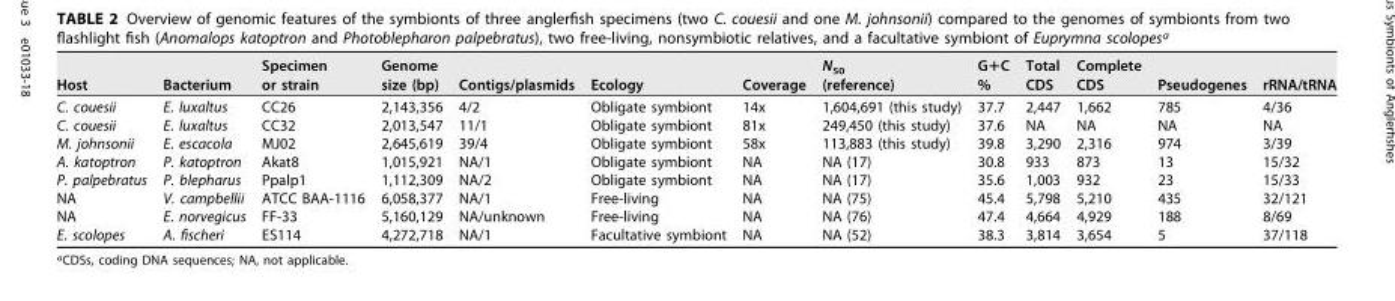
<table><thead><tr><td>Host</td><td>Bacterium</td><td>Specimen or strain</td><td>Genome size (bp)</td><td>Contigs/plasmids</td><td>Ecology</td><td>Coverage</td><td>N<sub>50</sub> (reference)</td><td>G+C %</td><td>Total CDS</td><td>Complete CDS</td><td>Pseudogenes</td><td>rRNA/tRNA</td></tr></thead><tbody><tr><td>C. couesii</td><td>E. luxaltus</td><td>CC26</td><td>2,143,356</td><td>4/2</td><td>Obligate symbiont</td><td>14x</td><td>1,604,691 (this study)</td><td>37.7</td><td>2,447</td><td>1,662</td><td>785</td><td>4/36</td></tr><tr><td>C. couesii</td><td>E. luxaltus</td><td>CC32</td><td>2,013,547</td><td>11/1</td><td>Obligate symbiont</td><td>81x</td><td>249,450 (this study)</td><td>37.6</td><td>NA</td><td>NA</td><td>NA</td><td>NA</td></tr><tr><td>M. johnsonii</td><td>E. escacola</td><td>MJ02</td><td>2,645,619</td><td>39/4</td><td>Obligate symbiont</td><td>58x</td><td>113,883 (this study)</td><td>39.8</td><td>3,290</td><td>2,316</td><td>974</td><td>3/39</td></tr><tr><td>A. katoptron</td><td>P. katoptron</td><td>Akat8</td><td>1,015,921</td><td>NA/1</td><td>Obligate symbiont</td><td>NA</td><td>NA (17)</td><td>30.8</td><td>933</td><td>873</td><td>13</td><td>15/32</td></tr><tr><td>P. palpebratus</td><td>P. blepharus</td><td>Ppalp1</td><td>1,112,309</td><td>NA/2</td><td>Obligate symbiont</td><td>NA</td><td>NA (17)</td><td>35.6</td><td>1,003</td><td>932</td><td>23</td><td>15/33</td></tr><tr><td>NA</td><td>V. campbellii</td><td>ATCC BAA-1116</td><td>6,058,377</td><td>NA/1</td><td>Free-living</td><td>NA</td><td>NA (75)</td><td>45.4</td><td>5,798</td><td>5,210</td><td>435</td><td>32/121</td></tr><tr><td>NA</td><td>E. norvegicus</td><td>FF-33</td><td>5,160,129</td><td>NA/unknown</td><td>Free-living</td><td>NA</td><td>NA (76)</td><td>47.4</td><td>4,664</td><td>4,929</td><td>188</td><td>8/69</td></tr><tr><td>E. scolopes</td><td>A. fischeri</td><td>ES114</td><td>4,272,718</td><td>NA/1</td><td>Facultative symbiont</td><td>NA</td><td>NA (52)</td><td>38.3</td><td>3,814</td><td>3,654</td><td>5</td><td>37/118</td></tr></tbody></table>